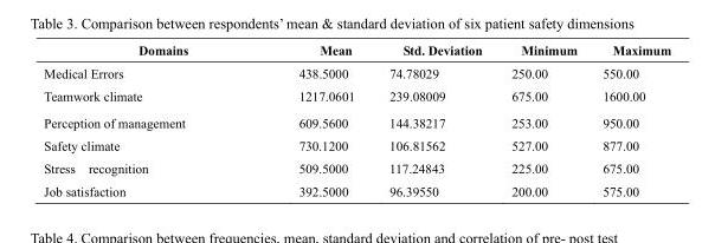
<table><thead><tr><td>Domains</td><td>Mean</td><td>Std. Deviation</td><td>Minimum</td><td>Maximum</td></tr></thead><tbody><tr><td>Medical Errors</td><td>438.5000</td><td>74.78029</td><td>250.00</td><td>550.00</td></tr><tr><td>Teamwork climate</td><td>1217.0601</td><td>239.08009</td><td>675.00</td><td>1600.00</td></tr><tr><td>Perception of management</td><td>609.5600</td><td>144.38217</td><td>253.00</td><td>950.00</td></tr><tr><td>Safety climate</td><td>730.1200</td><td>106.81562</td><td>527.00</td><td>877.00</td></tr><tr><td>Stress recognition</td><td>509.5000</td><td>117.24843</td><td>225.00</td><td>675.00</td></tr><tr><td>Job satisfaction</td><td>392.5000</td><td>96.39550</td><td>200.00</td><td>575.00</td></tr></tbody></table>